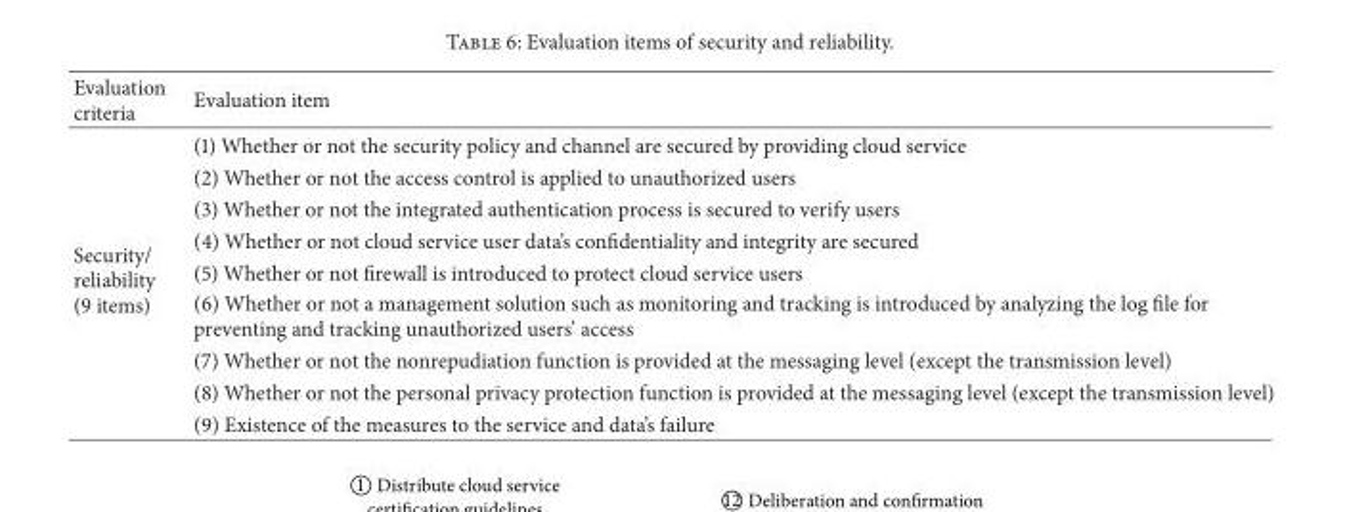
<table><thead><tr><td>Evaluation criteria</td><td>Evaluation item</td></tr></thead><tbody><tr><td rowspan="9">Security/ reliability (9 items)</td><td>(1) Whether or not the security policy and channel are secured by providing cloud service</td></tr><tr><td>(2) Whether or not the access control is applied to unauthorized users</td></tr><tr><td>(3) Whether or not the integrated authentication process is secured to verify users</td></tr><tr><td>(4) Whether or not cloud service user data’s confidentiality and integrity are secured</td></tr><tr><td>(5) Whether or not firewall is introduced to protect cloud service users</td></tr><tr><td>(6) Whether or not a management solution such as monitoring and tracking is introduced by analyzing the log file for preventing and tracking unauthorized users’ access</td></tr><tr><td>(7) Whether or not the nonrepudiation function is provided at the messaging level (except the transmission level)</td></tr><tr><td>(8) Whether or not the personal privacy protection function is provided at the messaging level (except the transmission level)</td></tr><tr><td>(9) Existence of the measures to the service and data’s failure</td></tr></tbody></table>